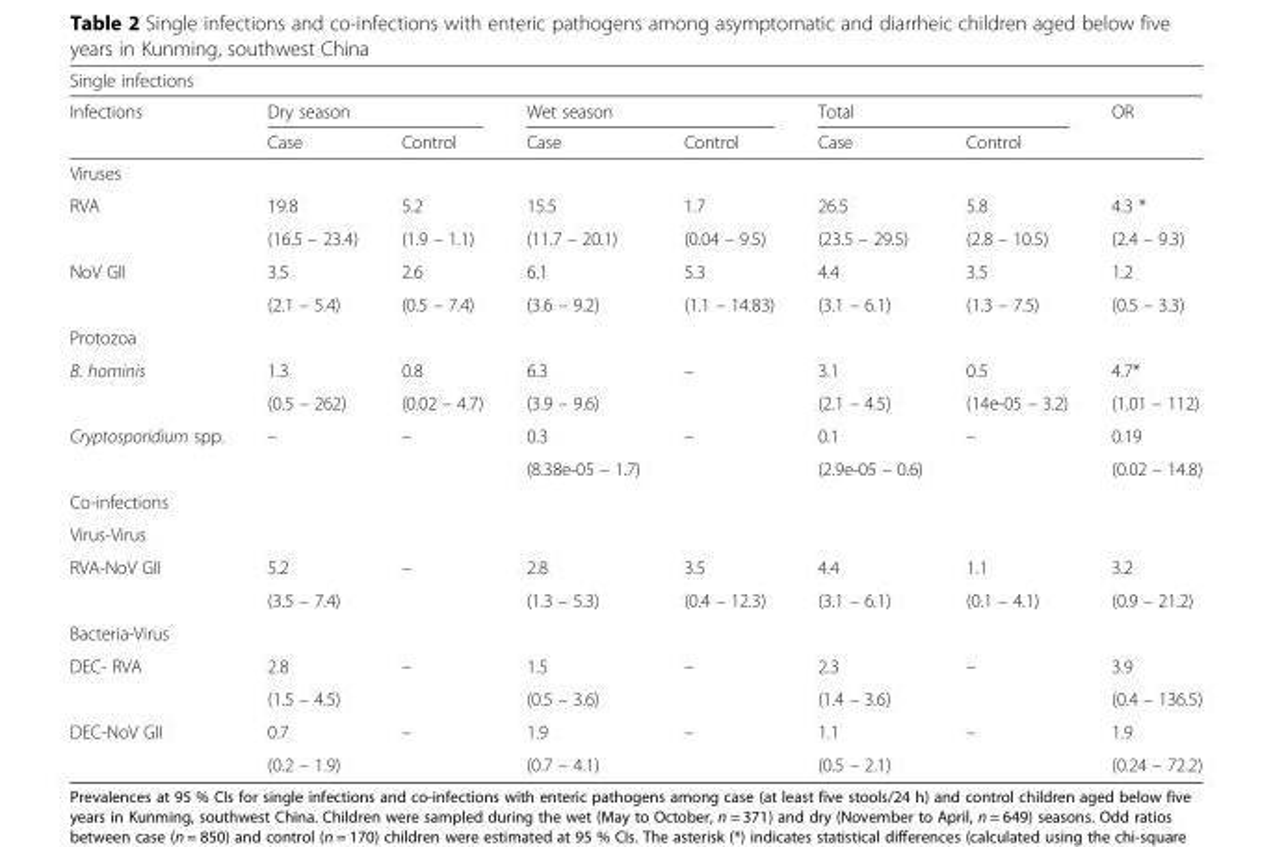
<table><thead><tr><td colspan="8">Single infections</td></tr><tr><td rowspan="2">Infections</td><td colspan="2">Dry season</td><td colspan="2">Wet season</td><td colspan="2">Total</td><td rowspan="2">OR</td></tr><tr><td>Case</td><td>Control</td><td>Case</td><td>Control</td><td>Case</td><td>Control</td></tr></thead><tbody><tr><td colspan="8">Viruses</td></tr><tr><td rowspan="2">RVA</td><td>19.8</td><td>5.2</td><td>15.5</td><td>1.7</td><td>26.5</td><td>5.8</td><td>4.3 *</td></tr><tr><td>(16.5 – 23.4)</td><td>(1.9 – 1.1)</td><td>(11.7 – 20.1)</td><td>(0.04 – 9.5)</td><td>(23.5 – 29.5)</td><td>(2.8 – 10.5)</td><td>(2.4 – 9.3)</td></tr><tr><td rowspan="2">NoV GII</td><td>3.5</td><td>2.6</td><td>6.1</td><td>5.3</td><td>4.4</td><td>3.5</td><td>1.2</td></tr><tr><td>(2.1 – 5.4)</td><td>(0.5 – 7.4)</td><td>(3.6 – 9.2)</td><td>(1.1 – 14.83)</td><td>(3.1 – 6.1)</td><td>(1.3 – 7.5)</td><td>(0.5 – 3.3)</td></tr><tr><td colspan="8">Protozoa</td></tr><tr><td rowspan="2">B. hominis</td><td>1.3</td><td>0.8</td><td>6.3</td><td rowspan="2">–</td><td>3.1</td><td>0.5</td><td>4.7*</td></tr><tr><td>(0.5 – 262)</td><td>(0.02 – 4.7)</td><td>(3.9 – 9.6)</td><td>(2.1 – 4.5)</td><td>(14e-05 – 3.2)</td><td>(1.01 – 112)</td></tr><tr><td rowspan="2">Cryptosporidium spp.</td><td rowspan="2">–</td><td rowspan="2">–</td><td>0.3</td><td rowspan="2">–</td><td>0.1</td><td rowspan="2">–</td><td>0.19</td></tr><tr><td>(8.38e-05 – 1.7)</td><td>(2.9e-05 – 0.6)</td><td>(0.02 – 14.8)</td></tr><tr><td colspan="8">Co-infections</td></tr><tr><td colspan="8">Virus-Virus</td></tr><tr><td rowspan="2">RVA-NoV GII</td><td>5.2</td><td rowspan="2">–</td><td>2.8</td><td>3.5</td><td>4.4</td><td>1.1</td><td>3.2</td></tr><tr><td>(3.5 – 7.4)</td><td>(1.3 – 5.3)</td><td>(0.4 – 12.3)</td><td>(3.1 – 6.1)</td><td>(0.1 – 4.1)</td><td>(0.9 – 21.2)</td></tr><tr><td colspan="8">Bacteria-Virus</td></tr><tr><td rowspan="2">DEC- RVA</td><td>2.8</td><td rowspan="2">–</td><td>1.5</td><td rowspan="2">–</td><td>2.3</td><td rowspan="2">–</td><td>3.9</td></tr><tr><td>(1.5 – 4.5)</td><td>(0.5 – 3.6)</td><td>(1.4 – 3.6)</td><td>(0.4 – 136.5)</td></tr><tr><td rowspan="2">DEC-NoV GII</td><td>0.7</td><td rowspan="2">–</td><td>1.9</td><td rowspan="2">–</td><td>1.1</td><td rowspan="2">–</td><td>1.9</td></tr><tr><td>(0.2 – 1.9)</td><td>(0.7 – 4.1)</td><td>(0.5 – 2.1)</td><td>(0.24 – 72.2)</td></tr></tbody></table>